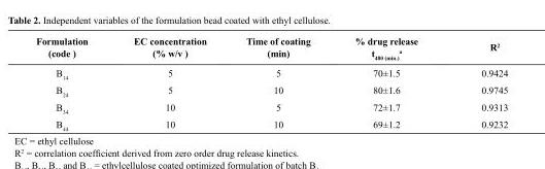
<table><thead><tr><td>Formulation (code )</td><td>EC concentration (% w/v )</td><td>Time of coating (min)</td><td>% drug release t<sub>480 (min.)</sub> <sup>a</sup></td><td>R<sup>2</sup></td></tr></thead><tbody><tr><td>B<sub>14</sub></td><td>5</td><td>5</td><td>70±1.5</td><td>0.9424</td></tr><tr><td>B<sub>24</sub></td><td>5</td><td>10</td><td>80±1.6</td><td>0.9745</td></tr><tr><td>B<sub>34</sub></td><td>10</td><td>5</td><td>72±1.7</td><td>0.9313</td></tr><tr><td>B<sub>44</sub></td><td>10</td><td>10</td><td>69±1.2</td><td>0.9232</td></tr></tbody></table>